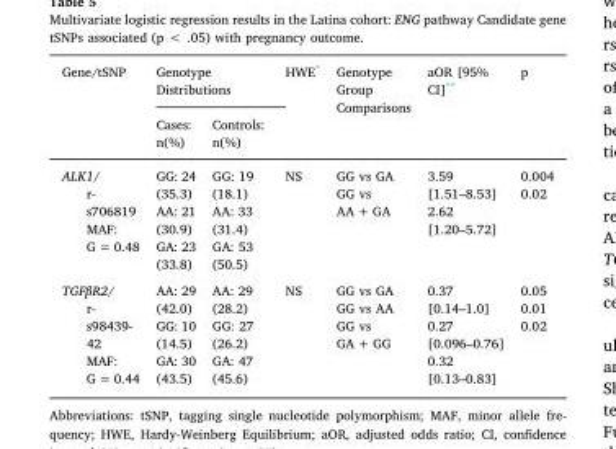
<table><thead><tr><td rowspan="2">Gene/tSNP</td><td colspan="2">Genotype Distributions</td><td rowspan="2">HWE*</td><td rowspan="2">Genotype Group Comparisons</td><td rowspan="2">aOR [95% CI]**</td><td rowspan="2">p</td></tr><tr><td>Cases: n(%)</td><td>Controls: n(%)</td></tr></thead><tbody><tr><td>ALK1/ r- s706819 MAF: G = 0.48</td><td>GG: 24 (35.3) AA: 21 (30.9) GA: 23 (33.8)</td><td>GG: 19 (18.1) AA: 33 (31.4) GA: 53 (50.5)</td><td>NS</td><td>GG vs GA GG vs AA + GA</td><td>3.59 [1.51–8.53] 2.62 [1.20–5.72]</td><td>0.004 0.02</td></tr><tr><td>TGFβR2/ r- s98439- 42 MAF: G = 0.44</td><td>AA: 29 (42.0) GG: 10 (14.5) GA: 30 (43.5)</td><td>AA: 29 (28.2) GG: 27 (26.2) GA: 47 (45.6)</td><td>NS</td><td>GG vs GA GG vs AA GG vs GA + GG</td><td>0.37 [0.14–1.0] 0.27 [0.096–0.76] 0.32 [0.13–0.83]</td><td>0.05 0.01 0.02</td></tr></tbody></table>